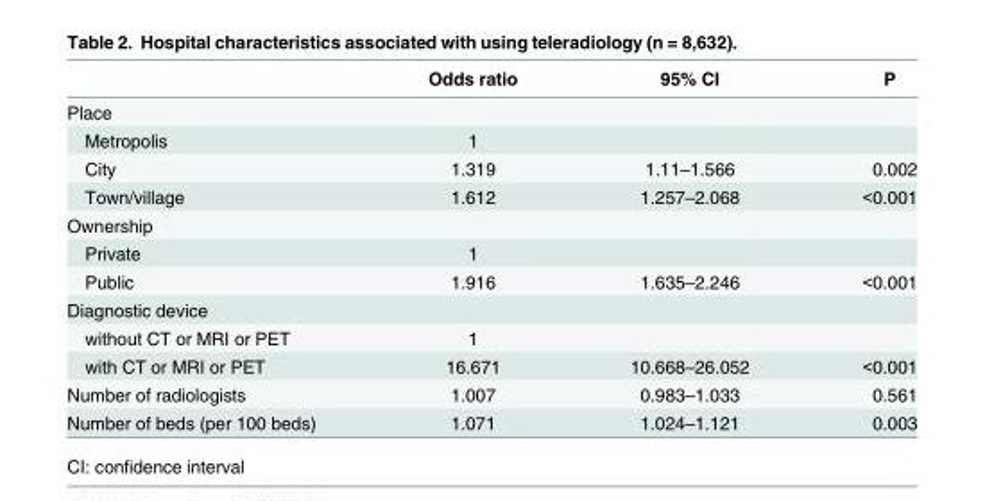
<table><thead><tr><td></td><td>Odds ratio</td><td>95% CI</td><td>P</td></tr></thead><tbody><tr><td colspan="4">Place</td></tr><tr><td>Metropolis</td><td>1</td><td></td><td></td></tr><tr><td>City</td><td>1.319</td><td>1.11–1.566</td><td>0.002</td></tr><tr><td>Town/village</td><td>1.612</td><td>1.257–2.068</td><td>&lt;0.001</td></tr><tr><td colspan="4">Ownership</td></tr><tr><td>Private</td><td>1</td><td></td><td></td></tr><tr><td>Public</td><td>1.916</td><td>1.635–2.246</td><td>&lt;0.001</td></tr><tr><td colspan="4">Diagnostic device</td></tr><tr><td>without CT or MRI or PET</td><td>1</td><td></td><td></td></tr><tr><td>with CT or MRI or PET</td><td>16.671</td><td>10.668–26.052</td><td>&lt;0.001</td></tr><tr><td>Number of radiologists</td><td>1.007</td><td>0.983–1.033</td><td>0.561</td></tr><tr><td>Number of beds (per 100 beds)</td><td>1.071</td><td>1.024–1.121</td><td>0.003</td></tr></tbody></table>